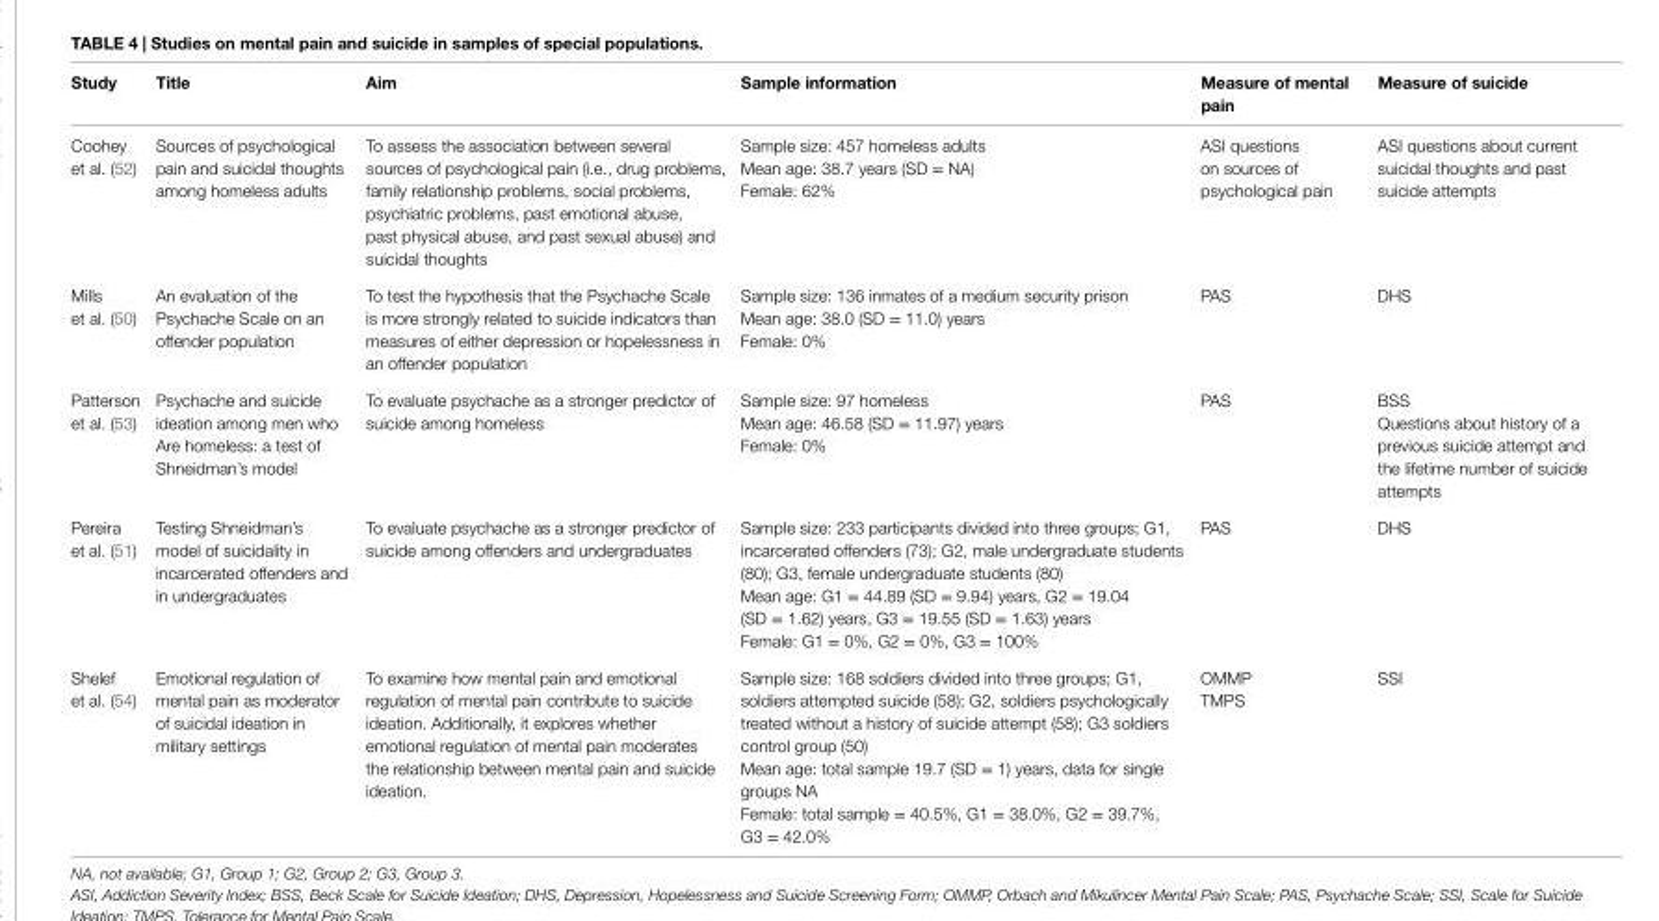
<table><thead><tr><td>Study</td><td>Title</td><td>Aim</td><td>Sample information</td><td>Measure of mental pain</td><td>Measure of suicide</td></tr></thead><tbody><tr><td>Coohey et al. (52)</td><td>Sources of psychological pain and suicidal thoughts among homeless adults</td><td>To assess the association between several sources of psychological pain (i.e., drug problems, family relationship problems, social problems, psychiatric problems, past emotional abuse, past physical abuse, and past sexual abuse) and suicidal thoughts</td><td>Sample size: 457 homeless adults Mean age: 38.7 years (SD = NA) Female: 62%</td><td>ASI questions on sources of psychological pain</td><td>ASI questions about current suicidal thoughts and past suicide attempts</td></tr><tr><td>Mills et al. (50)</td><td>An evaluation of the Psychache Scale on an offender population</td><td>To test the hypothesis that the Psychache Scale is more strongly related to suicide indicators than measures of either depression or hopelessness in an offender population</td><td>Sample size: 136 inmates of a medium security prison Mean age: 38.0 (SD = 11.0) years Female: 0%</td><td>PAS</td><td>DHS</td></tr><tr><td>Patterson et al. (53)</td><td>Psychache and suicide ideation among men who Are homeless: a test of Shneidman’s model</td><td>To evaluate psychache as a stronger predictor of suicide among homeless</td><td>Sample size: 97 homeless Mean age: 46.58 (SD = 11.97) years Female: 0%</td><td>PAS</td><td>BSS Questions about history of a previous suicide attempt and the lifetime number of suicide attempts</td></tr><tr><td>Pereira et al. (51)</td><td>Testing Shneidman’s model of suicidality in incarcerated offenders and in undergraduates</td><td>To evaluate psychache as a stronger predictor of suicide among offenders and undergraduates</td><td>Sample size: 233 participants divided into three groups; G1, incarcerated offenders (73); G2, male undergraduate students (80); G3, female undergraduate students (80) Mean age: G1 = 44.89 (SD = 9.94) years, G2 = 19.04 (SD = 1.62) years, G3 = 19.55 (SD = 1.63) years Female: G1 = 0%, G2 = 0%, G3 = 100%</td><td>PAS</td><td>DHS</td></tr><tr><td>Shelef et al. (54)</td><td>Emotional regulation of mental pain as moderator of suicidal ideation in military settings</td><td>To examine how mental pain and emotional regulation of mental pain contribute to suicide ideation. Additionally, it explores whether emotional regulation of mental pain moderates the relationship between mental pain and suicide ideation.</td><td>Sample size: 168 soldiers divided into three groups; G1, soldiers attempted suicide (58); G2, soldiers psychologically treated without a history of suicide attempt (58); G3 soldiers control group (50) Mean age: total sample 19.7 (SD = 1) years, data for single groups NA Female: total sample = 40.5%, G1 = 38.0%, G2 = 39.7%, G3 = 42.0%</td><td>OMMP TMPS</td><td>SSI</td></tr></tbody></table>